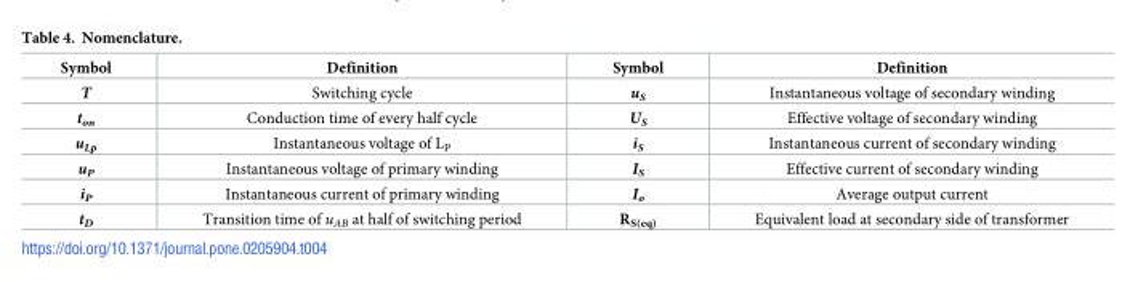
<table><thead><tr><td>Symbol</td><td>Definition</td><td>Symbol</td><td>Definition</td></tr></thead><tbody><tr><td>T</td><td>Switching cycle</td><td>u<sub>S</sub></td><td>Instantaneous voltage of secondary winding</td></tr><tr><td>t<sub>on</sub></td><td>Conduction time of every half cycle</td><td>U<sub>S</sub></td><td>Effective voltage of secondary winding</td></tr><tr><td>u<sub>Lp</sub></td><td>Instantaneous voltage of L<sub>P</sub></td><td>i<sub>S</sub></td><td>Instantaneous current of secondary winding</td></tr><tr><td>u<sub>P</sub></td><td>Instantaneous voltage of primary winding</td><td>I<sub>S</sub></td><td>Effective current of secondary winding</td></tr><tr><td>i<sub>P</sub></td><td>Instantaneous current of primary winding</td><td>I<sub>o</sub></td><td>Average output current</td></tr><tr><td>t<sub>D</sub></td><td>Transition time of u<sub>AB</sub> at half of switching period</td><td>R<sub>S(eq)</sub></td><td>Equivalent load at secondary side of transformer</td></tr></tbody></table>